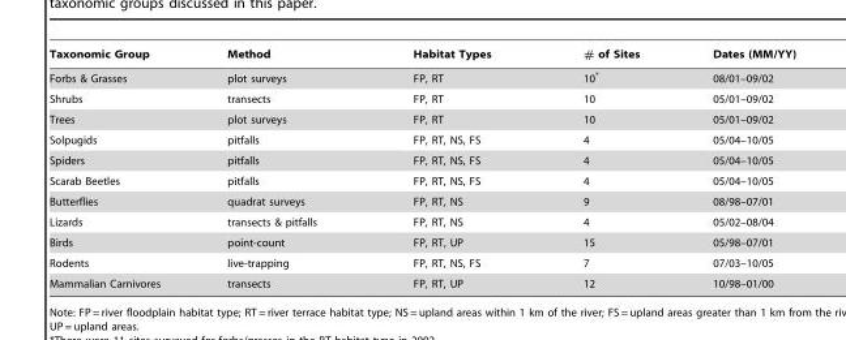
<table><thead><tr><td>Taxonomic Group</td><td>Method</td><td>Habitat Types</td><td># of Sites</td><td>Dates (MM/YY)</td></tr></thead><tbody><tr><td>Forbs &amp; Grasses</td><td>plot surveys</td><td>FP, RT</td><td>10*</td><td>08/01–09/02</td></tr><tr><td>Shrubs</td><td>transects</td><td>FP, RT</td><td>10</td><td>05/01–09/02</td></tr><tr><td>Trees</td><td>plot surveys</td><td>FP, RT</td><td>10</td><td>05/01–09/02</td></tr><tr><td>Solpugids</td><td>pitfalls</td><td>FP, RT, NS, FS</td><td>4</td><td>05/04–10/05</td></tr><tr><td>Spiders</td><td>pitfalls</td><td>FP, RT, NS, FS</td><td>4</td><td>05/04–10/05</td></tr><tr><td>Scarab Beetles</td><td>pitfalls</td><td>FP, RT, NS, FS</td><td>4</td><td>05/04–10/05</td></tr><tr><td>Butterflies</td><td>quadrat surveys</td><td>FP, RT, NS</td><td>9</td><td>08/98–07/01</td></tr><tr><td>Lizards</td><td>transects &amp; pitfalls</td><td>FP, RT, NS</td><td>4</td><td>05/02–08/04</td></tr><tr><td>Birds</td><td>point-count</td><td>FP, RT, UP</td><td>15</td><td>05/98–07/01</td></tr><tr><td>Rodents</td><td>live-trapping</td><td>FP, RT, NS, FS</td><td>7</td><td>07/03–10/05</td></tr><tr><td>Mammalian Carnivores</td><td>transects</td><td>FP, RT, UP</td><td>12</td><td>10/98–01/00</td></tr></tbody></table>